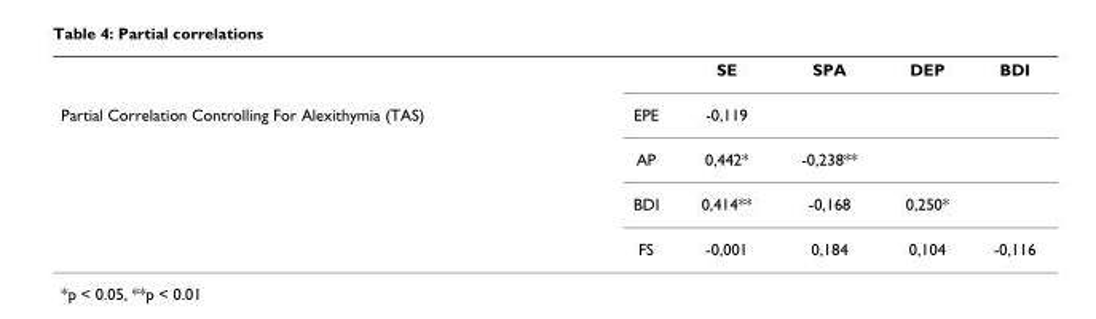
<table><thead><tr><td></td><td></td><td>SE</td><td>SPA</td><td>DEP</td><td>BDI</td></tr></thead><tbody><tr><td rowspan="4">Partial Correlation Controlling For Alexithymia (TAS)</td><td>EPE</td><td>-0,119</td><td></td><td></td><td></td></tr><tr><td>AP</td><td>0,442*</td><td>-0,238**</td><td></td><td></td></tr><tr><td>BDI</td><td>0,414**</td><td>-0,168</td><td>0,250*</td><td></td></tr><tr><td>FS</td><td>-0,001</td><td>0,184</td><td>0,104</td><td>-0,116</td></tr></tbody></table>